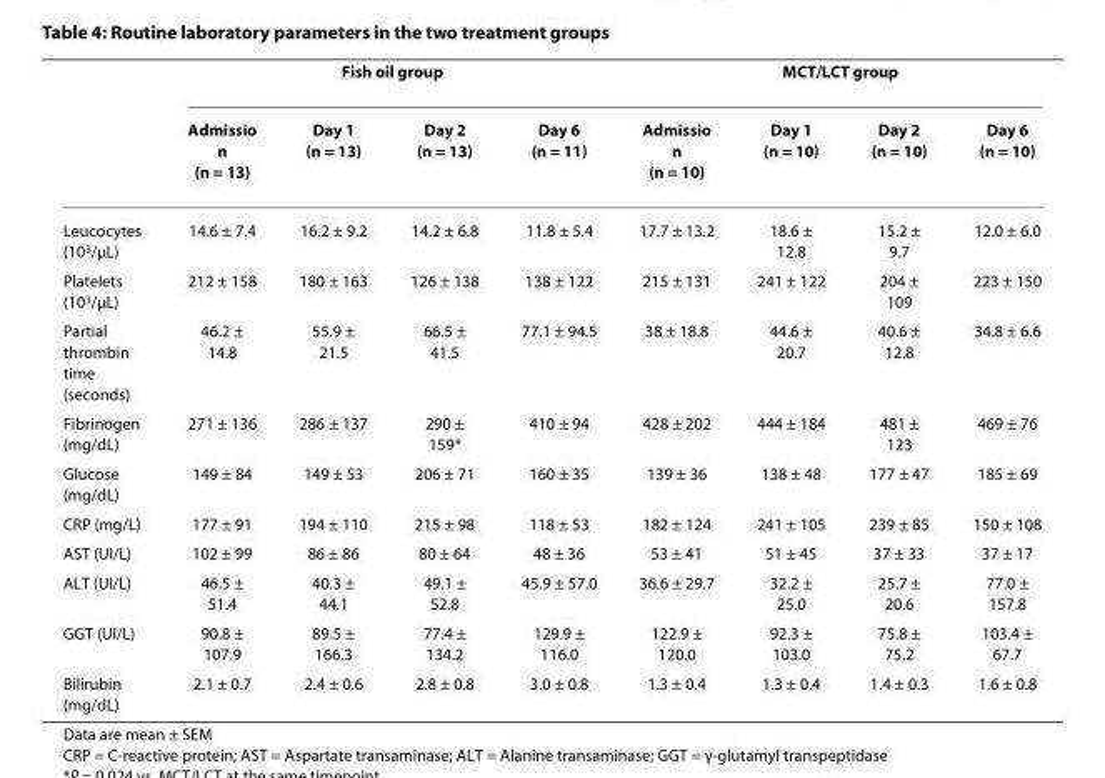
<table><thead><tr><td rowspan="2"></td><td colspan="4">Fish oil group</td><td colspan="4">MCT/LCT group</td></tr><tr><td>Admissio n (n = 13)</td><td>Day 1 (n = 13)</td><td>Day 2 (n = 13)</td><td>Day 6 (n = 11)</td><td>Admissio n (n = 10)</td><td>Day 1 (n = 10)</td><td>Day 2 (n = 10)</td><td>Day 6 (n = 10)</td></tr></thead><tbody><tr><td>Leucocytes (10<sup>3</sup>/μL)</td><td>14.6 ± 7.4</td><td>16.2 ± 9.2</td><td>14.2 ± 6.8</td><td>11.8 ± 5.4</td><td>17.7 ± 13.2</td><td>18.6 ± 12.8</td><td>15.2 ± 9.7</td><td>12.0 ± 6.0</td></tr><tr><td>Platelets (10<sup>3</sup>/μL)</td><td>212 ± 158</td><td>180 ± 163</td><td>126 ± 138</td><td>138 ± 122</td><td>215 ± 131</td><td>241 ± 122</td><td>204 ± 109</td><td>223 ± 150</td></tr><tr><td>Partial thrombin time (seconds)</td><td>46.2 ± 14.8</td><td>55.9 ± 21.5</td><td>66.5 ± 41.5</td><td>77.1 ± 94.5</td><td>38 ± 18.8</td><td>44.6 ± 20.7</td><td>40.6 ± 12.8</td><td>34.8 ± 6.6</td></tr><tr><td>Fibrinogen (mg/dL)</td><td>271 ± 136</td><td>286 ± 137</td><td>290 ± 159*</td><td>410 ± 94</td><td>428 ± 202</td><td>444 ± 184</td><td>481 ± 123</td><td>469 ± 76</td></tr><tr><td>Glucose (mg/dL)</td><td>149 ± 84</td><td>149 ± 53</td><td>206 ± 71</td><td>160 ± 35</td><td>139 ± 36</td><td>138 ± 48</td><td>177 ± 47</td><td>185 ± 69</td></tr><tr><td>CRP (mg/L)</td><td>177 ± 91</td><td>194 ± 110</td><td>215 ± 98</td><td>118 ± 53</td><td>182 ± 124</td><td>241 ± 105</td><td>239 ± 85</td><td>150 ± 108</td></tr><tr><td>AST (UI/L)</td><td>102 ± 99</td><td>86 ± 86</td><td>80 ± 64</td><td>48 ± 36</td><td>53 ± 41</td><td>51 ± 45</td><td>37 ± 33</td><td>37 ± 17</td></tr><tr><td>ALT (UI/L)</td><td>46.5 ± 51.4</td><td>40.3 ± 44.1</td><td>49.1 ± 52.8</td><td>45.9 ± 57.0</td><td>36.6 ± 29.7</td><td>32.2 ± 25.0</td><td>25.7 ± 20.6</td><td>77.0 ± 157.8</td></tr><tr><td>GGT (UI/L)</td><td>90.8 ± 107.9</td><td>89.5 ± 166.3</td><td>77.4 ± 134.2</td><td>129.9 ± 116.0</td><td>122.9 ± 120.0</td><td>92.3 ± 103.0</td><td>75.8 ± 75.2</td><td>103.4 ± 67.7</td></tr><tr><td>Bilirubin (mg/dL)</td><td>2.1 ± 0.7</td><td>2.4 ± 0.6</td><td>2.8 ± 0.8</td><td>3.0 ± 0.8</td><td>1.3 ± 0.4</td><td>1.3 ± 0.4</td><td>1.4 ± 0.3</td><td>1.6 ± 0.8</td></tr></tbody></table>